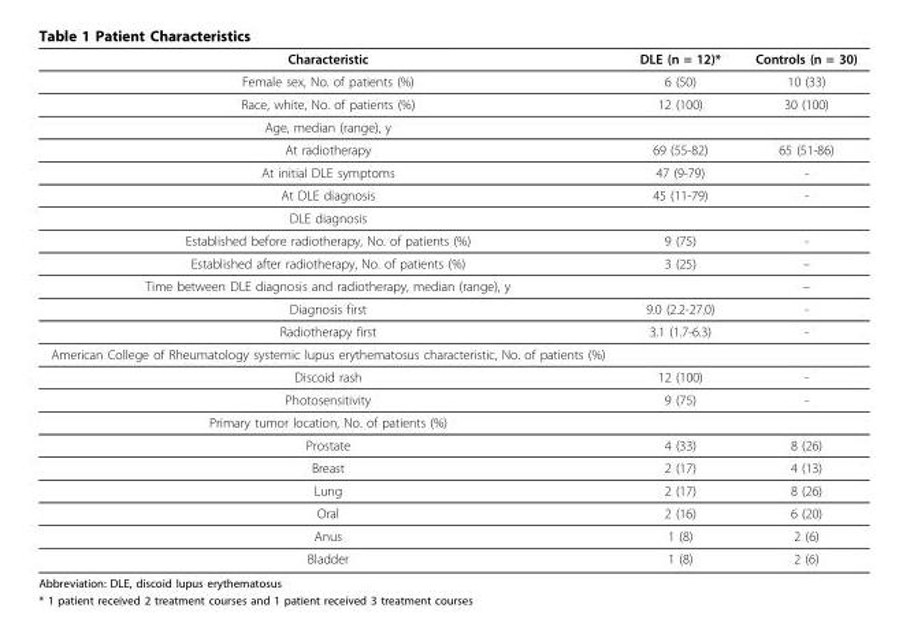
<table><thead><tr><td>Characteristic</td><td>DLE (n = 12)*</td><td>Controls (n = 30)</td></tr></thead><tbody><tr><td>Female sex, No. of patients (%)</td><td>6 (50)</td><td>10 (33)</td></tr><tr><td>Race, white, No. of patients (%)</td><td>12 (100)</td><td>30 (100)</td></tr><tr><td colspan="3">Age, median (range), y</td></tr><tr><td>At radiotherapy</td><td>69 (55-82)</td><td>65 (51-86)</td></tr><tr><td>At initial DLE symptoms</td><td>47 (9-79)</td><td>-</td></tr><tr><td>At DLE diagnosis</td><td>45 (11-79)</td><td>-</td></tr><tr><td colspan="3">DLE diagnosis</td></tr><tr><td>Established before radiotherapy, No. of patients (%)</td><td>9 (75)</td><td>-</td></tr><tr><td>Established after radiotherapy, No. of patients (%)</td><td>3 (25)</td><td>–</td></tr><tr><td>Time between DLE diagnosis and radiotherapy, median (range), y</td><td></td><td>–</td></tr><tr><td>Diagnosis first</td><td>9.0 (2.2-27.0)</td><td>-</td></tr><tr><td>Radiotherapy first</td><td>3.1 (1.7-6.3)</td><td>-</td></tr><tr><td colspan="3">American College of Rheumatology systemic lupus erythematosus characteristic, No. of patients (%)</td></tr><tr><td>Discoid rash</td><td>12 (100)</td><td>-</td></tr><tr><td>Photosensitivity</td><td>9 (75)</td><td>-</td></tr><tr><td colspan="3">Primary tumor location, No. of patients (%)</td></tr><tr><td>Prostate</td><td>4 (33)</td><td>8 (26)</td></tr><tr><td>Breast</td><td>2 (17)</td><td>4 (13)</td></tr><tr><td>Lung</td><td>2 (17)</td><td>8 (26)</td></tr><tr><td>Oral</td><td>2 (16)</td><td>6 (20)</td></tr><tr><td>Anus</td><td>1 (8)</td><td>2 (6)</td></tr><tr><td>Bladder</td><td>1 (8)</td><td>2 (6)</td></tr></tbody></table>